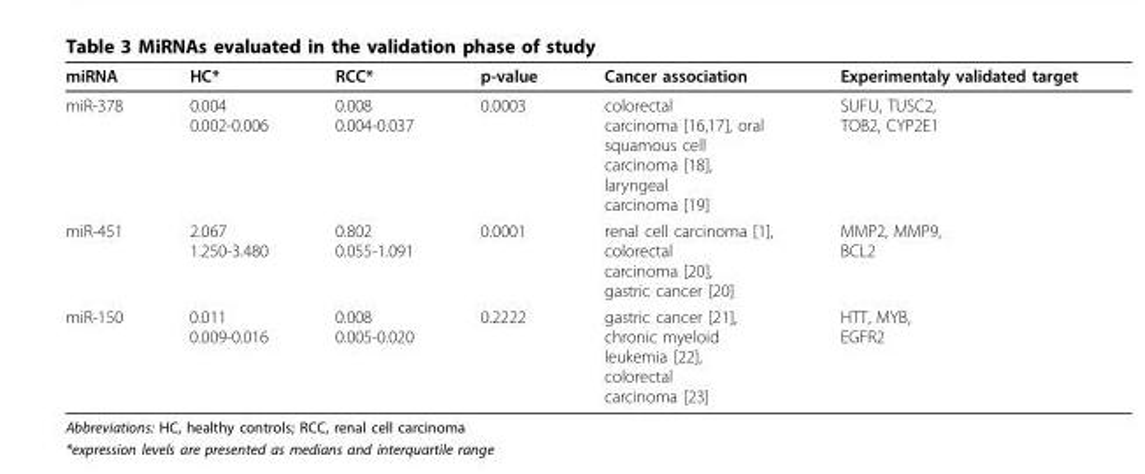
<table><thead><tr><td>miRNA</td><td>HC*</td><td>RCC*</td><td>p-value</td><td>Cancer association</td><td>Experimentaly validated target</td></tr></thead><tbody><tr><td>miR-378</td><td>0.004 0.002-0.006</td><td>0.008 0.004-0.037</td><td>0.0003</td><td>colorectal carcinoma [16,17], oral squamous cell carcinoma [18], laryngeal carcinoma [19]</td><td>SUFU, TUSC2, TOB2, CYP2E1</td></tr><tr><td>miR-451</td><td>2.067 1.250-3.480</td><td>0.802 0.055-1.091</td><td>0.0001</td><td>renal cell carcinoma [1], colorectal carcinoma [20], gastric cancer [20]</td><td>MMP2, MMP9, BCL2</td></tr><tr><td>miR-150</td><td>0.011 0.009-0.016</td><td>0.008 0.005-0.020</td><td>0.2222</td><td>gastric cancer [21], chronic myeloid leukemia [22], colorectal carcinoma [23]</td><td>HTT, MYB, EGFR2</td></tr></tbody></table>